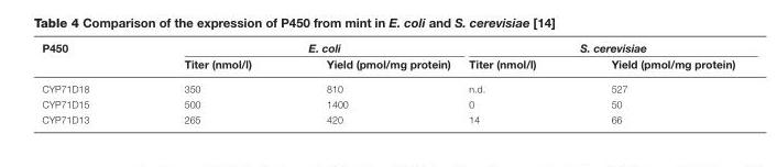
<table><thead><tr><td rowspan="2">P450</td><td colspan="2">E. coli</td><td colspan="2">S. cerevisiae</td></tr><tr><td>Titer (nmol/l)</td><td>Yield (pmol/mg protein)</td><td>Titer (nmol/l)</td><td>Yield (pmol/mg protein)</td></tr></thead><tbody><tr><td>CYP71D18</td><td>350</td><td>810</td><td>n.d.</td><td>527</td></tr><tr><td>CYP71D15</td><td>500</td><td>1400</td><td>0</td><td>50</td></tr><tr><td>CYP71D13</td><td>265</td><td>420</td><td>14</td><td>66</td></tr></tbody></table>